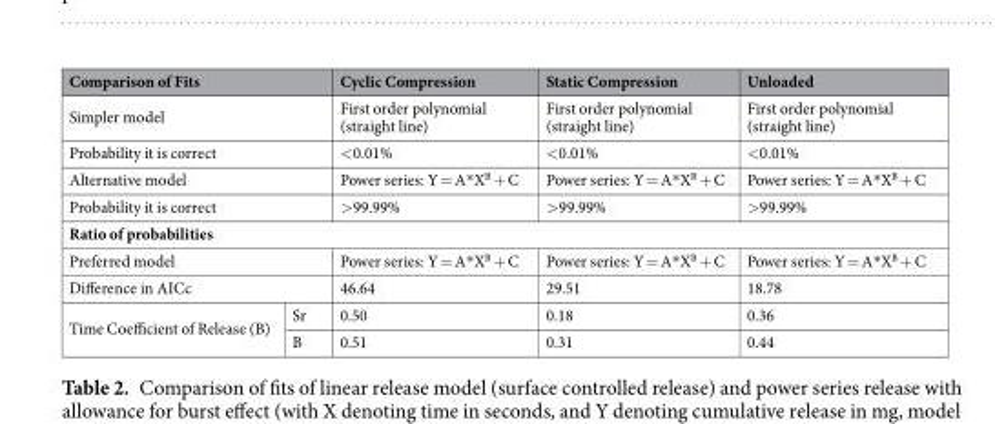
<table><thead><tr><td colspan="2">Comparison of Fits</td><td>Cyclic Compression</td><td>Static Compression</td><td>Unloaded</td></tr></thead><tbody><tr><td colspan="2">Simpler model</td><td>First order polynomial (straight line)</td><td>First order polynomial (straight line)</td><td>First order polynomial (straight line)</td></tr><tr><td colspan="2">Probability it is correct</td><td>&lt;0.01%</td><td>&lt;0.01%</td><td>&lt;0.01%</td></tr><tr><td colspan="2">Alternative model</td><td>Power series: Y = A*X<sup>B</sup> + C</td><td>Power series: Y = A*X<sup>B</sup> + C</td><td>Power series: Y = A*X<sup>B</sup> + C</td></tr><tr><td colspan="2">Probability it is correct</td><td>&gt;99.99%</td><td>&gt;99.99%</td><td>&gt;99.99%</td></tr><tr><td colspan="5">Ratio of probabilities</td></tr><tr><td colspan="2">Preferred model</td><td>Power series: Y = A*X<sup>B</sup> + C</td><td>Power series: Y = A*X<sup>B</sup> + C</td><td>Power series: Y = A*X<sup>B</sup> + C</td></tr><tr><td colspan="2">Difference in AICc</td><td>46.64</td><td>29.51</td><td>18.78</td></tr><tr><td rowspan="2">Time Coefficient of Release (B)</td><td>Sr</td><td>0.50</td><td>0.18</td><td>0.36</td></tr><tr><td>B</td><td>0.51</td><td>0.31</td><td>0.44</td></tr></tbody></table>